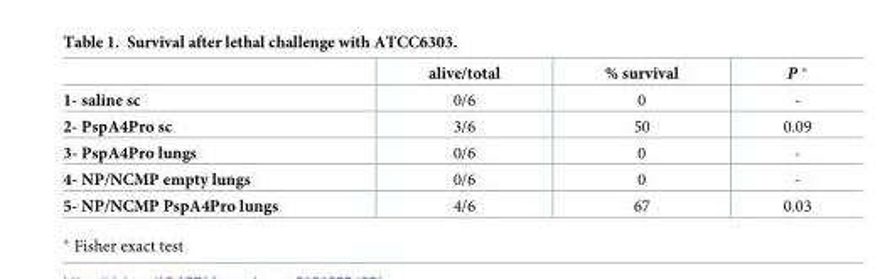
<table><thead><tr><td></td><td>alive/total</td><td>% survival</td><td>P *</td></tr></thead><tbody><tr><td>1- saline sc</td><td>0/6</td><td>0</td><td>-</td></tr><tr><td>2- PspA4Pro sc</td><td>3/6</td><td>50</td><td>0.09</td></tr><tr><td>3- PspA4Pro lungs</td><td>0/6</td><td>0</td><td>-</td></tr><tr><td>4- NP/NCMP empty lungs</td><td>0/6</td><td>0</td><td>-</td></tr><tr><td>5- NP/NCMP PspA4Pro lungs</td><td>4/6</td><td>67</td><td>0.03</td></tr></tbody></table>